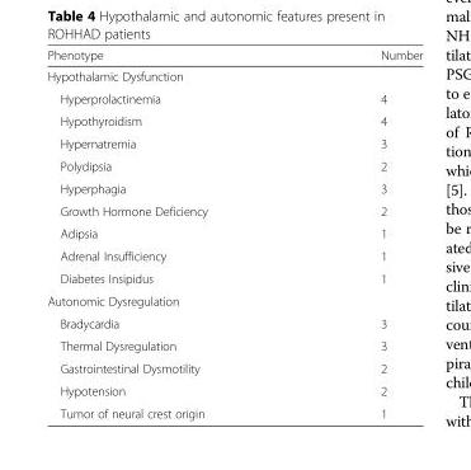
<table><thead><tr><td>Phenotype</td><td>Number</td></tr></thead><tbody><tr><td colspan="2">Hypothalamic Dysfunction</td></tr><tr><td>Hyperprolactinemia</td><td>4</td></tr><tr><td>Hypothyroidism</td><td>4</td></tr><tr><td>Hypernatremia</td><td>3</td></tr><tr><td>Polydipsia</td><td>2</td></tr><tr><td>Hyperphagia</td><td>3</td></tr><tr><td>Growth Hormone Deficiency</td><td>2</td></tr><tr><td>Adipsia</td><td>1</td></tr><tr><td>Adrenal Insufficiency</td><td>1</td></tr><tr><td>Diabetes Insipidus</td><td>1</td></tr><tr><td colspan="2">Autonomic Dysregulation</td></tr><tr><td>Bradycardia</td><td>3</td></tr><tr><td>Thermal Dysregulation</td><td>3</td></tr><tr><td>Gastrointestinal Dysmotility</td><td>2</td></tr><tr><td>Hypotension</td><td>2</td></tr><tr><td>Tumor of neural crest origin</td><td>1</td></tr></tbody></table>